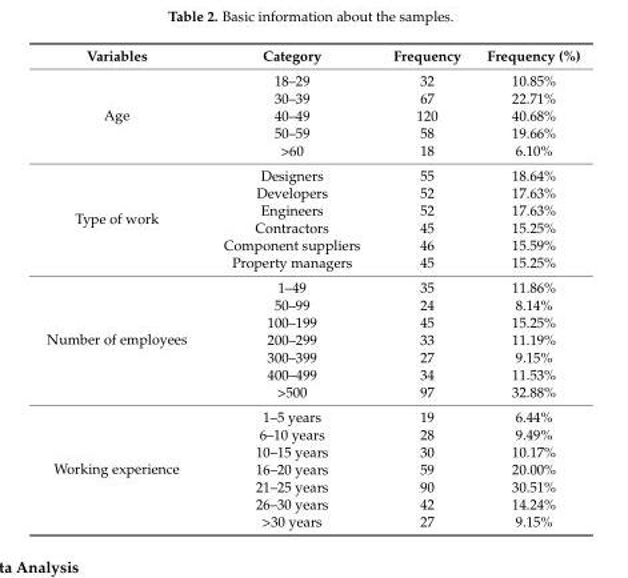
<table><thead><tr><td>Variables</td><td>Category</td><td>Frequency</td><td>Frequency (%)</td></tr></thead><tbody><tr><td rowspan="5">Age</td><td>18–29</td><td>32</td><td>10.85%</td></tr><tr><td>30–39</td><td>67</td><td>22.71%</td></tr><tr><td>40–49</td><td>120</td><td>40.68%</td></tr><tr><td>50–59</td><td>58</td><td>19.66%</td></tr><tr><td>&gt;60</td><td>18</td><td>6.10%</td></tr><tr><td rowspan="6">Type of work</td><td>Designers</td><td>55</td><td>18.64%</td></tr><tr><td>Developers</td><td>52</td><td>17.63%</td></tr><tr><td>Engineers</td><td>52</td><td>17.63%</td></tr><tr><td>Contractors</td><td>45</td><td>15.25%</td></tr><tr><td>Component suppliers</td><td>46</td><td>15.59%</td></tr><tr><td>Property managers</td><td>45</td><td>15.25%</td></tr><tr><td rowspan="7">Number of employees</td><td>1–49</td><td>35</td><td>11.86%</td></tr><tr><td>50–99</td><td>24</td><td>8.14%</td></tr><tr><td>100–199</td><td>45</td><td>15.25%</td></tr><tr><td>200–299</td><td>33</td><td>11.19%</td></tr><tr><td>300–399</td><td>27</td><td>9.15%</td></tr><tr><td>400–499</td><td>34</td><td>11.53%</td></tr><tr><td>&gt;500</td><td>97</td><td>32.88%</td></tr><tr><td rowspan="7">Working experience</td><td>1–5 years</td><td>19</td><td>6.44%</td></tr><tr><td>6–10 years</td><td>28</td><td>9.49%</td></tr><tr><td>10–15 years</td><td>30</td><td>10.17%</td></tr><tr><td>16–20 years</td><td>59</td><td>20.00%</td></tr><tr><td>21–25 years</td><td>90</td><td>30.51%</td></tr><tr><td>26–30 years</td><td>42</td><td>14.24%</td></tr><tr><td>&gt;30 years</td><td>27</td><td>9.15%</td></tr></tbody></table>